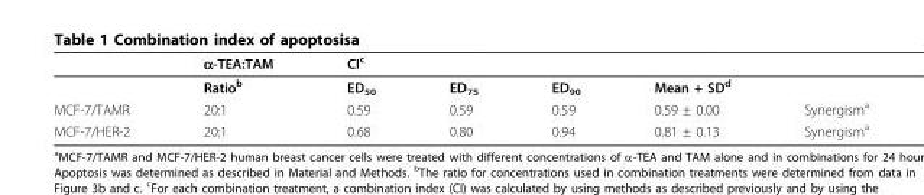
<table><thead><tr><td rowspan="2"></td><td rowspan="2">α-TEA:TAM Ratio<sup>b</sup></td><td colspan="3">CI<sup>c</sup></td><td rowspan="2">Mean + SD<sup>d</sup></td><td rowspan="2"></td></tr><tr><td>ED<sub>50</sub></td><td>ED<sub>75</sub></td><td>ED<sub>90</sub></td></tr></thead><tbody><tr><td>MCF-7/TAMR</td><td>20:1</td><td>0.59</td><td>0.59</td><td>0.59</td><td>0.59 ± 0.00</td><td>Synergism<sup>a</sup></td></tr><tr><td>MCF-7/HER-2</td><td>20:1</td><td>0.68</td><td>0.80</td><td>0.94</td><td>0.81 ± 0.13</td><td>Synergism<sup>a</sup></td></tr></tbody></table>